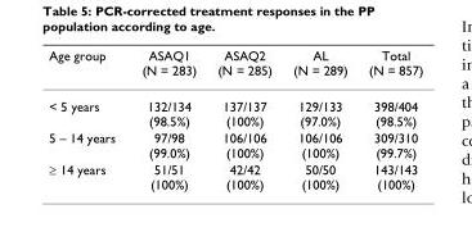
<table><thead><tr><td>Age group</td><td>ASAQ1 (N = 283)</td><td>ASAQ2 (N = 285)</td><td>AL (N = 289)</td><td>Total (N = 857)</td></tr></thead><tbody><tr><td>&lt; 5 years</td><td>132/134 (98.5%)</td><td>137/137 (100%)</td><td>129/133 (97.0%)</td><td>398/404 (98.5%)</td></tr><tr><td>5 – 14 years</td><td>97/98 (99.0%)</td><td>106/106 (100%)</td><td>106/106 (100%)</td><td>309/310 (99.7%)</td></tr><tr><td>≥ 14 years</td><td>51/51 (100%)</td><td>42/42 (100%)</td><td>50/50 (100%)</td><td>143/143 (100%)</td></tr></tbody></table>